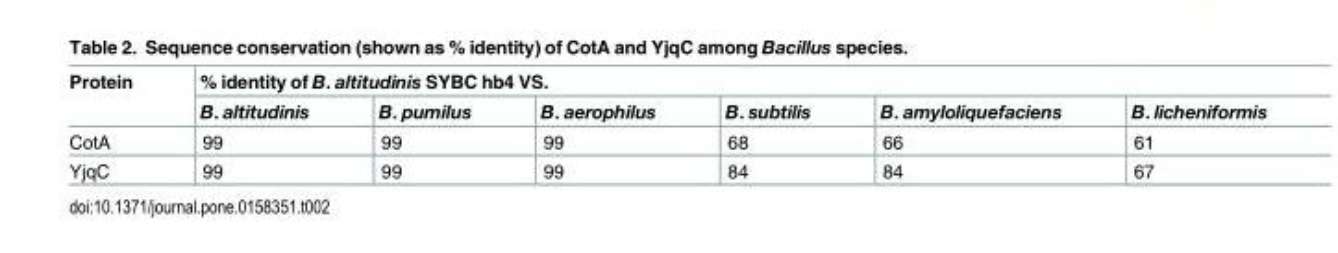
<table><thead><tr><td rowspan="2">Protein</td><td colspan="6">% identity of B. altitudinis SYBC hb4 VS.</td></tr><tr><td>B. altitudinis</td><td>B. pumilus</td><td>B. aerophilus</td><td>B. subtilis</td><td>B. amyloliquefaciens</td><td>B. licheniformis</td></tr></thead><tbody><tr><td>CotA</td><td>99</td><td>99</td><td>99</td><td>68</td><td>66</td><td>61</td></tr><tr><td>YjqC</td><td>99</td><td>99</td><td>99</td><td>84</td><td>84</td><td>67</td></tr></tbody></table>